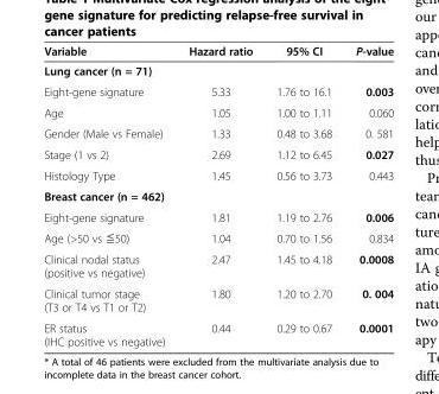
<table><thead><tr><td>Variable</td><td>Hazard ratio</td><td>95% CI</td><td>P-value</td></tr></thead><tbody><tr><td colspan="4">Lung cancer (n = 71)</td></tr><tr><td>Eight-gene signature</td><td>5.33</td><td>1.76 to 16.1</td><td>0.003</td></tr><tr><td>Age</td><td>1.05</td><td>1.00 to 1.11</td><td>0.060</td></tr><tr><td>Gender (Male vs Female)</td><td>1.33</td><td>0.48 to 3.68</td><td>0. 581</td></tr><tr><td>Stage (1 vs 2)</td><td>2.69</td><td>1.12 to 6.45</td><td>0.027</td></tr><tr><td>Histology Type</td><td>1.45</td><td>0.56 to 3.73</td><td>0.443</td></tr><tr><td colspan="4">Breast cancer (n = 462)</td></tr><tr><td>Eight-gene signature</td><td>1.81</td><td>1.19 to 2.76</td><td>0.006</td></tr><tr><td>Age (&gt;50 vs ≦50)</td><td>1.04</td><td>0.70 to 1.56</td><td>0.834</td></tr><tr><td>Clinical nodal status (positive vs negative)</td><td>2.47</td><td>1.45 to 4.18</td><td>0.0008</td></tr><tr><td>Clinical tumor stage (T3 or T4 vs T1 or T2)</td><td>1.80</td><td>1.20 to 2.70</td><td>0. 004</td></tr><tr><td>ER status (IHC positive vs negative)</td><td>0.44</td><td>0.29 to 0.67</td><td>0.0001</td></tr></tbody></table>